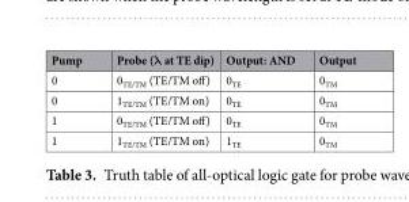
<table><thead><tr><td>Pump</td><td>Probe (λ at TE dip)</td><td>Output: AND</td><td>Output</td></tr></thead><tbody><tr><td>0</td><td>0<sub>TE/TM</sub> (TE/TM off)</td><td>0<sub>TE</sub></td><td>0<sub>TM</sub></td></tr><tr><td>0</td><td>1<sub>TE/TM</sub> (TE/TM on)</td><td>0<sub>TE</sub></td><td>0<sub>TM</sub></td></tr><tr><td>1</td><td>0<sub>TE/TM</sub> (TE/TM off)</td><td>0<sub>TE</sub></td><td>0<sub>TM</sub></td></tr><tr><td>1</td><td>1<sub>TE/TM</sub> (TE/TM on)</td><td>1<sub>TE</sub></td><td>0<sub>TM</sub></td></tr></tbody></table>